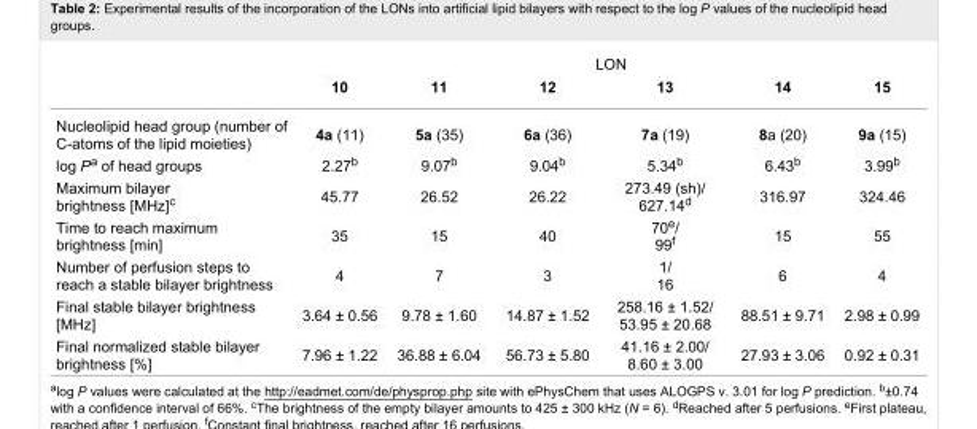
<table><thead><tr><td rowspan="2"></td><td colspan="6">LON</td></tr><tr><td>10</td><td>11</td><td>12</td><td>13</td><td>14</td><td>15</td></tr></thead><tbody><tr><td>Nucleolipid head group (number of C-atoms of the lipid moieties)</td><td>4a (11)</td><td>5a (35)</td><td>6a (36)</td><td>7a (19)</td><td>8a (20)</td><td>9a (15)</td></tr><tr><td>log P<sup>a</sup> of head groups</td><td>2.27<sup>b</sup></td><td>9.07<sup>b</sup></td><td>9.04<sup>b</sup></td><td>5.34<sup>b</sup></td><td>6.43<sup>b</sup></td><td>3.99<sup>b</sup></td></tr><tr><td>Maximum bilayer brightness [MHz]<sup>c</sup></td><td>45.77</td><td>26.52</td><td>26.22</td><td>273.49 (sh)/ 627.14<sup>d</sup></td><td>316.97</td><td>324.46</td></tr><tr><td>Time to reach maximum brightness [min]</td><td>35</td><td>15</td><td>40</td><td>70<sup>e</sup>/ 99<sup>f</sup></td><td>15</td><td>55</td></tr><tr><td>Number of perfusion steps to reach a stable bilayer brightness</td><td>4</td><td>7</td><td>3</td><td>1/ 16</td><td>6</td><td>4</td></tr><tr><td>Final stable bilayer brightness [MHz]</td><td>3.64 ± 0.56</td><td>9.78 ± 1.60</td><td>14.87 ± 1.52</td><td>258.16 ± 1.52/ 53.95 ± 20.68</td><td>88.51 ± 9.71</td><td>2.98 ± 0.99</td></tr><tr><td>Final normalized stable bilayer brightness [%]</td><td>7.96 ± 1.22</td><td>36.88 ± 6.04</td><td>56.73 ± 5.80</td><td>41.16 ± 2.00/ 8.60 ± 3.00</td><td>27.93 ± 3.06</td><td>0.92 ± 0.31</td></tr></tbody></table>